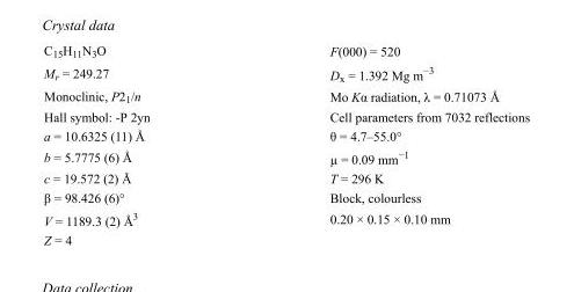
<table><tbody><tr><td>C<sub>15</sub>H<sub>11</sub>N<sub>3</sub>O</td><td>F(000) = 520</td></tr><tr><td>M<sub>r</sub> = 249.27</td><td>D<sub>x</sub> = 1.392 Mg m<sup>−3</sup></td></tr><tr><td>Monoclinic, P2<sub>1</sub>/n</td><td>Mo Kα radiation, λ = 0.71073 Å</td></tr><tr><td>Hall symbol: -P 2yn</td><td>Cell parameters from 7032 reflections</td></tr><tr><td>a = 10.6325 (11) Å</td><td>θ = 4.7–55.0°</td></tr><tr><td>b = 5.7775 (6) Å</td><td>µ = 0.09 mm<sup>−1</sup></td></tr><tr><td>c = 19.572 (2) Å</td><td>T = 296 K</td></tr><tr><td>β = 98.426 (6)°</td><td>Block, colourless</td></tr><tr><td>V = 1189.3 (2) Å<sup>3</sup></td><td>0.20 × 0.15 × 0.10 mm</td></tr><tr><td>Z = 4</td><td></td></tr></tbody></table>